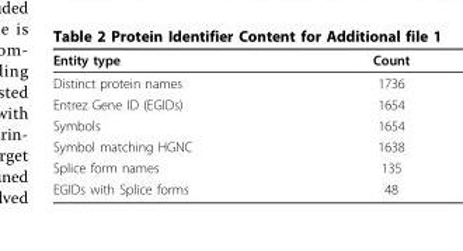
<table><thead><tr><td>Entity type</td><td>Count</td></tr></thead><tbody><tr><td>Distinct protein names</td><td>1736</td></tr><tr><td>Entrez Gene ID (EGIDs)</td><td>1654</td></tr><tr><td>Symbols</td><td>1654</td></tr><tr><td>Symbol matching HGNC</td><td>1638</td></tr><tr><td>Splice form names</td><td>135</td></tr><tr><td>EGIDs with Splice forms</td><td>48</td></tr></tbody></table>